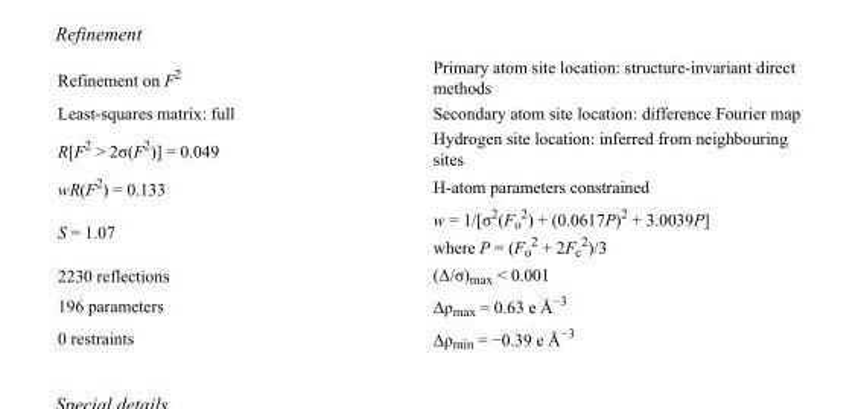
<table><tbody><tr><td>Refinement on F<sup>2</sup></td><td>Primary atom site location: structure-invariant direct methods</td></tr><tr><td>Least-squares matrix: full</td><td>Secondary atom site location: difference Fourier map</td></tr><tr><td>R[F<sup>2</sup> &gt; 2σ(F<sup>2</sup>)] = 0.049</td><td>Hydrogen site location: inferred from neighbouring sites</td></tr><tr><td>wR(F<sup>2</sup>) = 0.133</td><td>H-atom parameters constrained</td></tr><tr><td>S = 1.07</td><td>w = 1/[σ<sup>2</sup>(F<sub>o</sub> <sup>2</sup>) + (0.0617P)<sup>2</sup> + 3.0039P] where P = (F<sub>o</sub> <sup>2</sup> + 2F<sub>c</sub> <sup>2</sup>)/3</td></tr><tr><td>2230 reflections</td><td>(Δ/σ)<sub>max</sub> &lt; 0.001</td></tr><tr><td>196 parameters</td><td>Δρ<sub>max</sub> = 0.63 e Å<sup>−3</sup></td></tr><tr><td>0 restraints</td><td>Δρ<sub>min</sub> = −0.39 e Å<sup>−3</sup></td></tr></tbody></table>